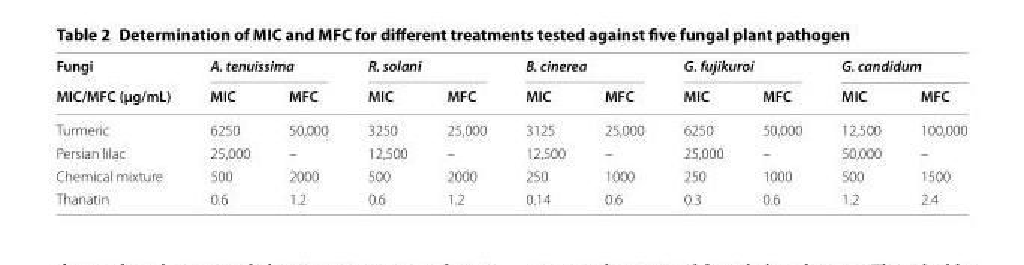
<table><thead><tr><td rowspan="2">Fungi MIC/MFC (µg/mL)</td><td colspan="2">A. tenuissima</td><td colspan="2">R. solani</td><td colspan="2">B. cinerea</td><td colspan="2">G. fujikuroi</td><td colspan="2">G. candidum</td></tr><tr><td>MIC</td><td>MFC</td><td>MIC</td><td>MFC</td><td>MIC</td><td>MFC</td><td>MIC</td><td>MFC</td><td>MIC</td><td>MFC</td></tr></thead><tbody><tr><td>Turmeric</td><td>6250</td><td>50,000</td><td>3250</td><td>25,000</td><td>3125</td><td>25,000</td><td>6250</td><td>50,000</td><td>12,500</td><td>100,000</td></tr><tr><td>Persian lilac</td><td>25,000</td><td>–</td><td>12,500</td><td>–</td><td>12,500</td><td>–</td><td>25,000</td><td>–</td><td>50,000</td><td>–</td></tr><tr><td>Chemical mixture</td><td>500</td><td>2000</td><td>500</td><td>2000</td><td>250</td><td>1000</td><td>250</td><td>1000</td><td>500</td><td>1500</td></tr><tr><td>Thanatin</td><td>0.6</td><td>1.2</td><td>0.6</td><td>1.2</td><td>0.14</td><td>0.6</td><td>0.3</td><td>0.6</td><td>1.2</td><td>2.4</td></tr></tbody></table>